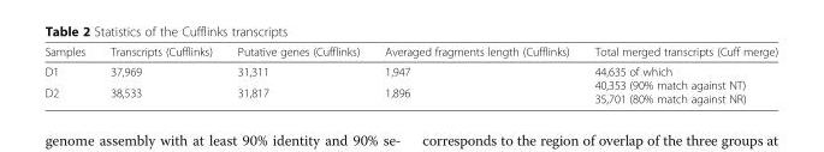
<table><thead><tr><td>Samples</td><td>Transcripts (Cufflinks)</td><td>Putative genes (Cufflinks)</td><td>Averaged fragments length (Cufflinks)</td><td>Total merged transcripts (Cuff merge)</td></tr></thead><tbody><tr><td>D1</td><td>37,969</td><td>31,311</td><td>1,947</td><td rowspan="2">44,635 of which 40,353 (90% match against NT) 35,701 (80% match against NR)</td></tr><tr><td>D2</td><td>38,533</td><td>31,817</td><td>1,896</td></tr></tbody></table>